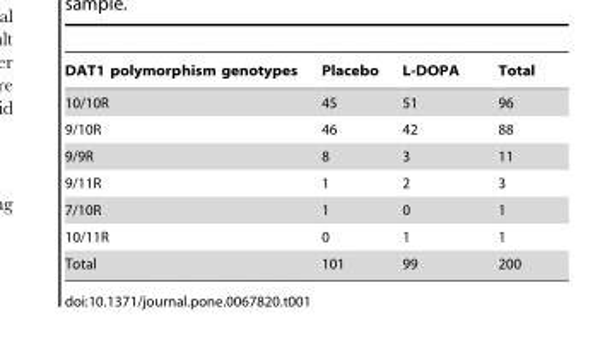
<table><thead><tr><td>DAT1 polymorphism genotypes</td><td>Placebo</td><td>L-DOPA</td><td>Total</td></tr></thead><tbody><tr><td>10/10R</td><td>45</td><td>51</td><td>96</td></tr><tr><td>9/10R</td><td>46</td><td>42</td><td>88</td></tr><tr><td>9/9R</td><td>8</td><td>3</td><td>11</td></tr><tr><td>9/11R</td><td>1</td><td>2</td><td>3</td></tr><tr><td>7/10R</td><td>1</td><td>0</td><td>1</td></tr><tr><td>10/11R</td><td>0</td><td>1</td><td>1</td></tr><tr><td>Total</td><td>101</td><td>99</td><td>200</td></tr></tbody></table>